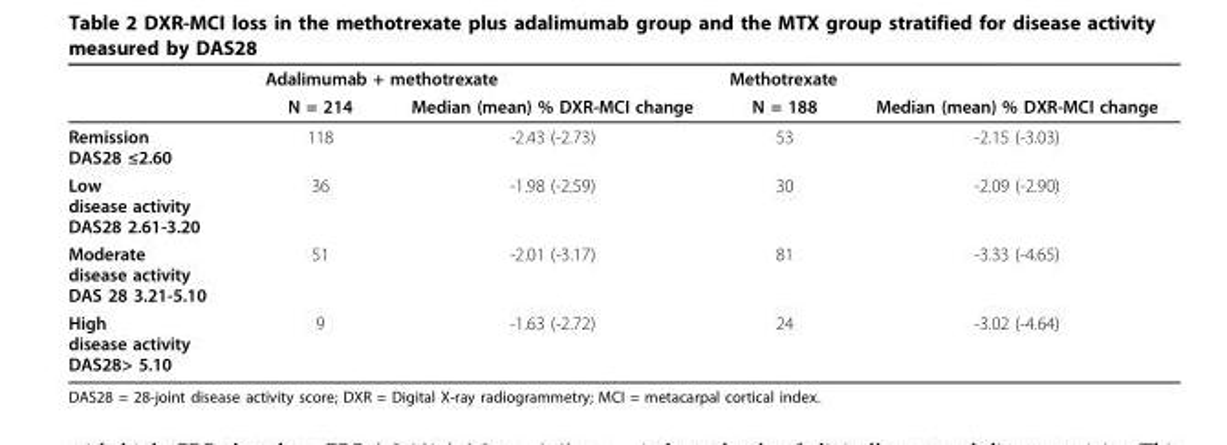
<table><thead><tr><td rowspan="2"></td><td colspan="2">Adalimumab + methotrexate</td><td colspan="2">Methotrexate</td></tr><tr><td>N = 214</td><td>Median (mean) % DXR-MCI change</td><td>N = 188</td><td>Median (mean) % DXR-MCI change</td></tr></thead><tbody><tr><td>Remission DAS28 ≤2.60</td><td>118</td><td>-2.43 (-2.73)</td><td>53</td><td>-2.15 (-3.03)</td></tr><tr><td>Low disease activity DAS28 2.61-3.20</td><td>36</td><td>-1.98 (-2.59)</td><td>30</td><td>-2.09 (-2.90)</td></tr><tr><td>Moderate disease activity DAS 28 3.21-5.10</td><td>51</td><td>-2.01 (-3.17)</td><td>81</td><td>-3.33 (-4.65)</td></tr><tr><td>High disease activity DAS28&gt; 5.10</td><td>9</td><td>-1.63 (-2.72)</td><td>24</td><td>-3.02 (-4.64)</td></tr></tbody></table>